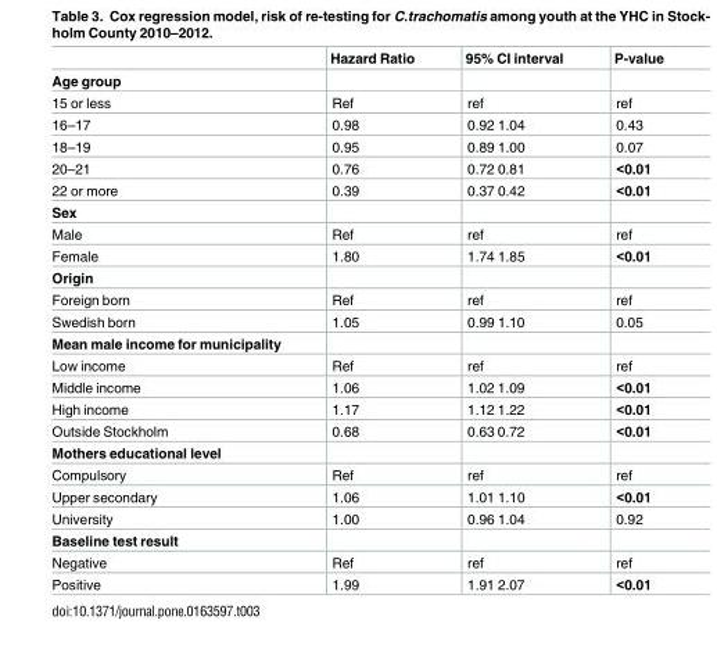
<table><thead><tr><td></td><td>Hazard Ratio</td><td>95% CI interval</td><td>P-value</td></tr></thead><tbody><tr><td colspan="4">Age group</td></tr><tr><td>15 or less</td><td>Ref</td><td>ref</td><td>ref</td></tr><tr><td>16–17</td><td>0.98</td><td>0.92 1.04</td><td>0.43</td></tr><tr><td>18–19</td><td>0.95</td><td>0.89 1.00</td><td>0.07</td></tr><tr><td>20–21</td><td>0.76</td><td>0.72 0.81</td><td>&lt;0.01</td></tr><tr><td>22 or more</td><td>0.39</td><td>0.37 0.42</td><td>&lt;0.01</td></tr><tr><td colspan="4">Sex</td></tr><tr><td>Male</td><td>Ref</td><td>ref</td><td>ref</td></tr><tr><td>Female</td><td>1.80</td><td>1.74 1.85</td><td>&lt;0.01</td></tr><tr><td colspan="4">Origin</td></tr><tr><td>Foreign born</td><td>Ref</td><td>ref</td><td>ref</td></tr><tr><td>Swedish born</td><td>1.05</td><td>0.99 1.10</td><td>0.05</td></tr><tr><td colspan="4">Mean male income for municipality</td></tr><tr><td>Low income</td><td>Ref</td><td>ref</td><td>ref</td></tr><tr><td>Middle income</td><td>1.06</td><td>1.02 1.09</td><td>&lt;0.01</td></tr><tr><td>High income</td><td>1.17</td><td>1.12 1.22</td><td>&lt;0.01</td></tr><tr><td>Outside Stockholm</td><td>0.68</td><td>0.63 0.72</td><td>&lt;0.01</td></tr><tr><td colspan="4">Mothers educational level</td></tr><tr><td>Compulsory</td><td>Ref</td><td>ref</td><td>ref</td></tr><tr><td>Upper secondary</td><td>1.06</td><td>1.01 1.10</td><td>&lt;0.01</td></tr><tr><td>University</td><td>1.00</td><td>0.96 1.04</td><td>0.92</td></tr><tr><td colspan="4">Baseline test result</td></tr><tr><td>Negative</td><td>Ref</td><td>ref</td><td>ref</td></tr><tr><td>Positive</td><td>1.99</td><td>1.91 2.07</td><td>&lt;0.01</td></tr></tbody></table>